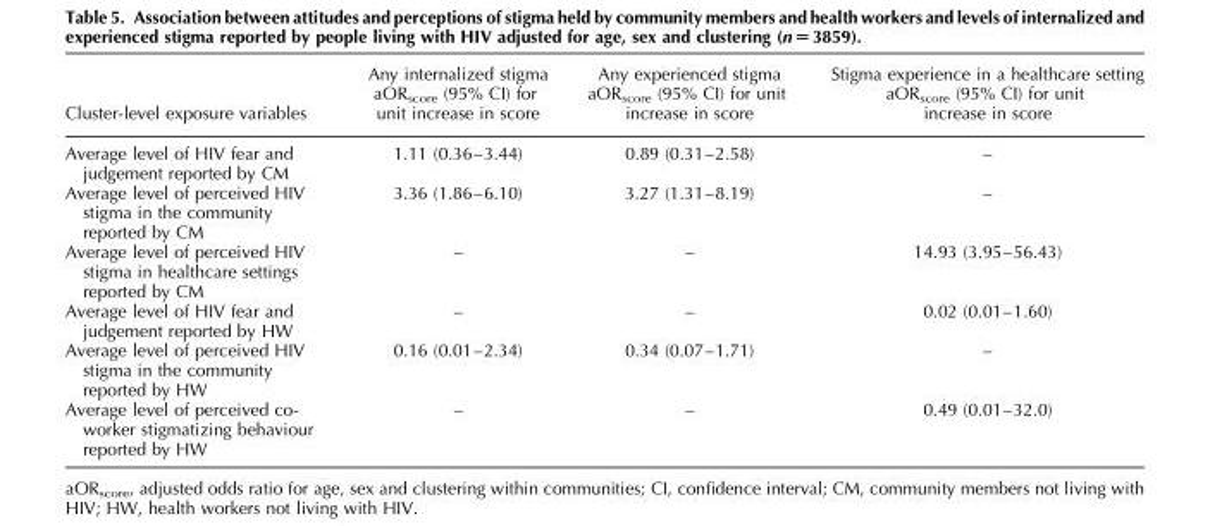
<table><thead><tr><td rowspan="2">Cluster-level exposure variables</td><td rowspan="2">Any internalized stigma aOR<sub>score</sub> (95% CI) for unit increase in score</td><td rowspan="2">Any experienced stigma aOR<sub>score</sub> (95% CI) for unit increase in score</td><td rowspan="2">Stigma experience in a healthcare setting aOR<sub>score</sub> (95% CI) for unit increase in score</td></tr><tr></tr></thead><tbody><tr><td>Average level of HIV fear and judgement reported by CM</td><td>1.11 (0.36–3.44)</td><td>0.89 (0.31–2.58)</td><td>–</td></tr><tr><td>Average level of perceived HIV stigma in the community reported by CM</td><td>3.36 (1.86–6.10)</td><td>3.27 (1.31–8.19)</td><td>–</td></tr><tr><td>Average level of perceived HIV stigma in healthcare settings reported by CM</td><td>–</td><td>–</td><td>14.93 (3.95–56.43)</td></tr><tr><td>Average level of HIV fear and judgement reported by HW</td><td>–</td><td>–</td><td>0.02 (0.01–1.60)</td></tr><tr><td>Average level of perceived HIV stigma in the community reported by HW</td><td>0.16 (0.01–2.34)</td><td>0.34 (0.07–1.71)</td><td>–</td></tr><tr><td>Average level of perceived co- worker stigmatizing behaviour reported by HW</td><td>–</td><td>–</td><td>0.49 (0.01–32.0)</td></tr></tbody></table>